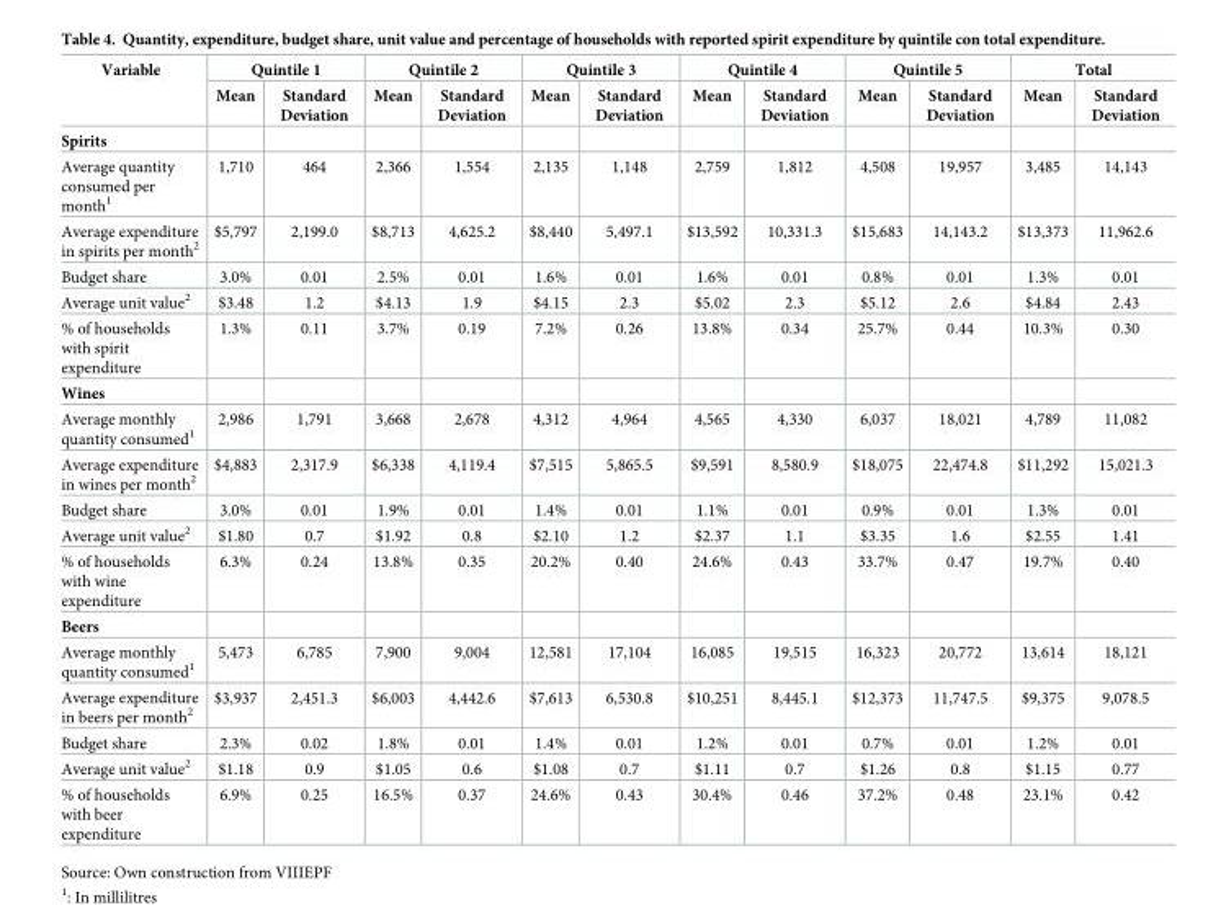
<table><thead><tr><td rowspan="2">Variable</td><td colspan="2">Quintile 1</td><td colspan="2">Quintile 2</td><td colspan="2">Quintile 3</td><td colspan="2">Quintile 4</td><td colspan="2">Quintile 5</td><td colspan="2">Total</td></tr><tr><td>Mean</td><td>Standard Deviation</td><td>Mean</td><td>Standard Deviation</td><td>Mean</td><td>Standard Deviation</td><td>Mean</td><td>Standard Deviation</td><td>Mean</td><td>Standard Deviation</td><td>Mean</td><td>Standard Deviation</td></tr></thead><tbody><tr><td colspan="13">Spirits</td></tr><tr><td>Average quantity consumed per month<sup>1</sup></td><td>1,710</td><td>464</td><td>2,366</td><td>1,554</td><td>2,135</td><td>1,148</td><td>2,759</td><td>1,812</td><td>4,508</td><td>19,957</td><td>3,485</td><td>14,143</td></tr><tr><td>Average expenditure in spirits per month<sup>2</sup></td><td>$5,797</td><td>2,199.0</td><td>$8,713</td><td>4,625.2</td><td>$8,440</td><td>5,497.1</td><td>$13,592</td><td>10,331.3</td><td>$15,683</td><td>14,143.2</td><td>$13,373</td><td>11,962.6</td></tr><tr><td>Budget share</td><td>3.0%</td><td>0.01</td><td>2.5%</td><td>0.01</td><td>1.6%</td><td>0.01</td><td>1.6%</td><td>0.01</td><td>0.8%</td><td>0.01</td><td>1.3%</td><td>0.01</td></tr><tr><td>Average unit value<sup>2</sup></td><td>$3.48</td><td>1.2</td><td>$4.13</td><td>1.9</td><td>$4.15</td><td>2.3</td><td>$5.02</td><td>2.3</td><td>$5.12</td><td>2.6</td><td>$4.84</td><td>2.43</td></tr><tr><td>% of households with spirit expenditure</td><td>1.3%</td><td>0.11</td><td>3.7%</td><td>0.19</td><td>7.2%</td><td>0.26</td><td>13.8%</td><td>0.34</td><td>25.7%</td><td>0.44</td><td>10.3%</td><td>0.30</td></tr><tr><td colspan="13">Wines</td></tr><tr><td>Average monthly quantity consumed<sup>1</sup></td><td>2,986</td><td>1,791</td><td>3,668</td><td>2,678</td><td>4,312</td><td>4,964</td><td>4,565</td><td>4,330</td><td>6,037</td><td>18,021</td><td>4,789</td><td>11,082</td></tr><tr><td>Average expenditure in wines per month<sup>2</sup></td><td>$4,883</td><td>2,317.9</td><td>$6,338</td><td>4,119.4</td><td>$7,515</td><td>5,865.5</td><td>$9,591</td><td>8,580.9</td><td>$18,075</td><td>22,474.8</td><td>$11,292</td><td>15,021.3</td></tr><tr><td>Budget share</td><td>3.0%</td><td>0.01</td><td>1.9%</td><td>0.01</td><td>1.4%</td><td>0.01</td><td>1.1%</td><td>0.01</td><td>0.9%</td><td>0.01</td><td>1.3%</td><td>0.01</td></tr><tr><td>Average unit value<sup>2</sup></td><td>$1.80</td><td>0.7</td><td>$1.92</td><td>0.8</td><td>$2.10</td><td>1.2</td><td>$2.37</td><td>1.1</td><td>$3.35</td><td>1.6</td><td>$2.55</td><td>1.41</td></tr><tr><td>% of households with wine expenditure</td><td>6.3%</td><td>0.24</td><td>13.8%</td><td>0.35</td><td>20.2%</td><td>0.40</td><td>24.6%</td><td>0.43</td><td>33.7%</td><td>0.47</td><td>19.7%</td><td>0.40</td></tr><tr><td colspan="13">Beers</td></tr><tr><td>Average monthly quantity consumed<sup>1</sup></td><td>5,473</td><td>6,785</td><td>7,900</td><td>9,004</td><td>12,581</td><td>17,104</td><td>16,085</td><td>19,515</td><td>16,323</td><td>20,772</td><td>13,614</td><td>18,121</td></tr><tr><td>Average expenditure in beers per month<sup>2</sup></td><td>$3,937</td><td>2,451.3</td><td>$6,003</td><td>4,442.6</td><td>$7,613</td><td>6,530.8</td><td>$10,251</td><td>8,445.1</td><td>$12,373</td><td>11,747.5</td><td>$9,375</td><td>9,078.5</td></tr><tr><td>Budget share</td><td>2.3%</td><td>0.02</td><td>1.8%</td><td>0.01</td><td>1.4%</td><td>0.01</td><td>1.2%</td><td>0.01</td><td>0.7%</td><td>0.01</td><td>1.2%</td><td>0.01</td></tr><tr><td>Average unit value<sup>2</sup></td><td>$1.18</td><td>0.9</td><td>$1.05</td><td>0.6</td><td>$1.08</td><td>0.7</td><td>$1.11</td><td>0.7</td><td>$1.26</td><td>0.8</td><td>$1.15</td><td>0.77</td></tr><tr><td>% of households with beer expenditure</td><td>6.9%</td><td>0.25</td><td>16.5%</td><td>0.37</td><td>24.6%</td><td>0.43</td><td>30.4%</td><td>0.46</td><td>37.2%</td><td>0.48</td><td>23.1%</td><td>0.42</td></tr></tbody></table>